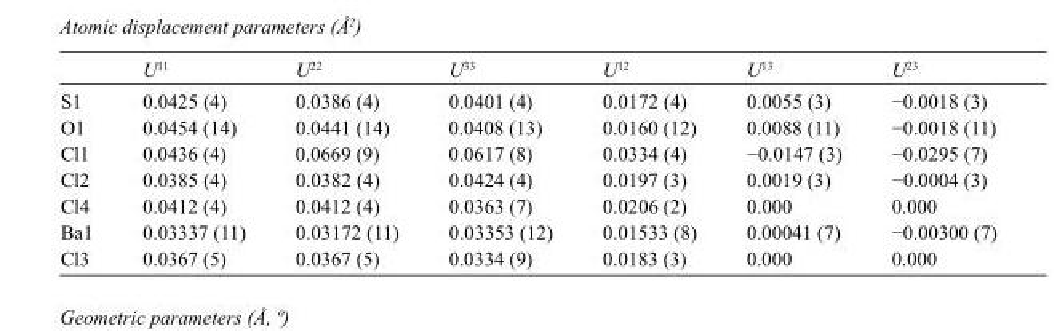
<table><thead><tr><td></td><td>U<sup>11</sup></td><td>U<sup>22</sup></td><td>U<sup>33</sup></td><td>U<sup>12</sup></td><td>U<sup>13</sup></td><td>U<sup>23</sup></td></tr></thead><tbody><tr><td>S1</td><td>0.0425 (4)</td><td>0.0386 (4)</td><td>0.0401 (4)</td><td>0.0172 (4)</td><td>0.0055 (3)</td><td>−0.0018 (3)</td></tr><tr><td>O1</td><td>0.0454 (14)</td><td>0.0441 (14)</td><td>0.0408 (13)</td><td>0.0160 (12)</td><td>0.0088 (11)</td><td>−0.0018 (11)</td></tr><tr><td>Cl1</td><td>0.0436 (4)</td><td>0.0669 (9)</td><td>0.0617 (8)</td><td>0.0334 (4)</td><td>−0.0147 (3)</td><td>−0.0295 (7)</td></tr><tr><td>Cl2</td><td>0.0385 (4)</td><td>0.0382 (4)</td><td>0.0424 (4)</td><td>0.0197 (3)</td><td>0.0019 (3)</td><td>−0.0004 (3)</td></tr><tr><td>Cl4</td><td>0.0412 (4)</td><td>0.0412 (4)</td><td>0.0363 (7)</td><td>0.0206 (2)</td><td>0.000</td><td>0.000</td></tr><tr><td>Ba1</td><td>0.03337 (11)</td><td>0.03172 (11)</td><td>0.03353 (12)</td><td>0.01533 (8)</td><td>0.00041 (7)</td><td>−0.00300 (7)</td></tr><tr><td>Cl3</td><td>0.0367 (5)</td><td>0.0367 (5)</td><td>0.0334 (9)</td><td>0.0183 (3)</td><td>0.000</td><td>0.000</td></tr></tbody></table>